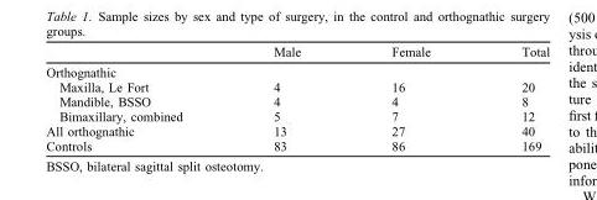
<table><thead><tr><td></td><td>Male</td><td>Female</td><td>Total</td></tr></thead><tbody><tr><td colspan="4">Orthognathic</td></tr><tr><td>Maxilla, Le Fort</td><td>4</td><td>16</td><td>20</td></tr><tr><td>Mandible, BSSO</td><td>4</td><td>4</td><td>8</td></tr><tr><td>Bimaxillary, combined</td><td>5</td><td>7</td><td>12</td></tr><tr><td>All orthognathic</td><td>13</td><td>27</td><td>40</td></tr><tr><td>Controls</td><td>83</td><td>86</td><td>169</td></tr></tbody></table>